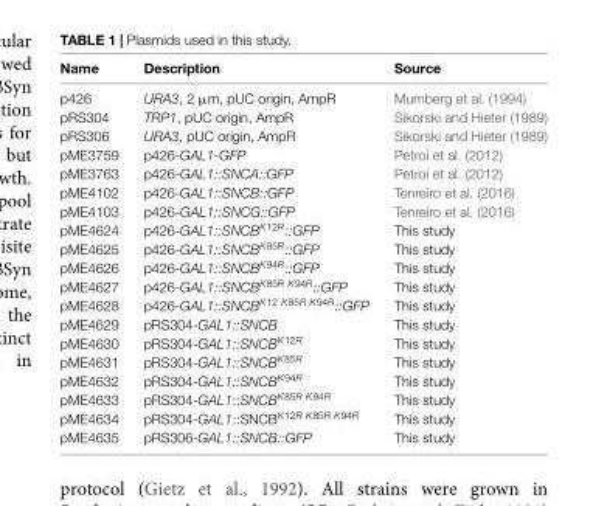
<table><thead><tr><td>Name</td><td>Description</td><td>Source</td></tr></thead><tbody><tr><td>p426</td><td>URA3, 2 µm, pUC origin, AmpR</td><td>Mumberg et al. (1994)</td></tr><tr><td>pRS304</td><td>TRP1, pUC origin, AmpR</td><td>Sikorski and Hieter (1989)</td></tr><tr><td>pRS306</td><td>URA3, pUC origin, AmpR</td><td>Sikorski and Hieter (1989)</td></tr><tr><td>pME3759</td><td>p426-GAL1-GFP</td><td>Petroi et al. (2012)</td></tr><tr><td>pME3763</td><td>p426-GAL1::SNCA::GFP</td><td>Petroi et al. (2012)</td></tr><tr><td>pME4102</td><td>p426-GAL1::SNCB::GFP</td><td>Tenreiro et al. (2016)</td></tr><tr><td>pME4103</td><td>p426-GAL1::SNCG::GFP</td><td>Tenreiro et al. (2016)</td></tr><tr><td>pME4624</td><td>p426-GAL1::SNCB<sup>K12R</sup>::GFP</td><td>This study</td></tr><tr><td>pME4625</td><td>p426-GAL1::SNCB<sup>K85R</sup>::GFP</td><td>This study</td></tr><tr><td>pME4626</td><td>p426-GAL1::SNCB<sup>K94R</sup>::GFP</td><td>This study</td></tr><tr><td>pME4627</td><td>p426-GAL1::SNCB<sup>K85R K94R</sup>::GFP</td><td>This study</td></tr><tr><td>pME4628</td><td>p426-GAL1::SNCB<sup>K12 K85R K94R</sup>::GFP</td><td>This study</td></tr><tr><td>pME4629</td><td>pRS304-GAL1::SNCB</td><td>This study</td></tr><tr><td>pME4630</td><td>pRS304-GAL1::SNCB<sup>K12R</sup></td><td>This study</td></tr><tr><td>pME4631</td><td>pRS304-GAL1::SNCB<sup>K85R</sup></td><td>This study</td></tr><tr><td>pME4632</td><td>pRS304-GAL1::SNCB<sup>K94R</sup></td><td>This study</td></tr><tr><td>pME4633</td><td>pRS304-GAL1::SNCB<sup>K85R K94R</sup></td><td>This study</td></tr><tr><td>pME4634</td><td>pRS304-GAL1::SNCB<sup>K12R K85R K94R</sup></td><td>This study</td></tr><tr><td>pME4635</td><td>pRS306-GAL1::SNCB::GFP</td><td>This study</td></tr></tbody></table>